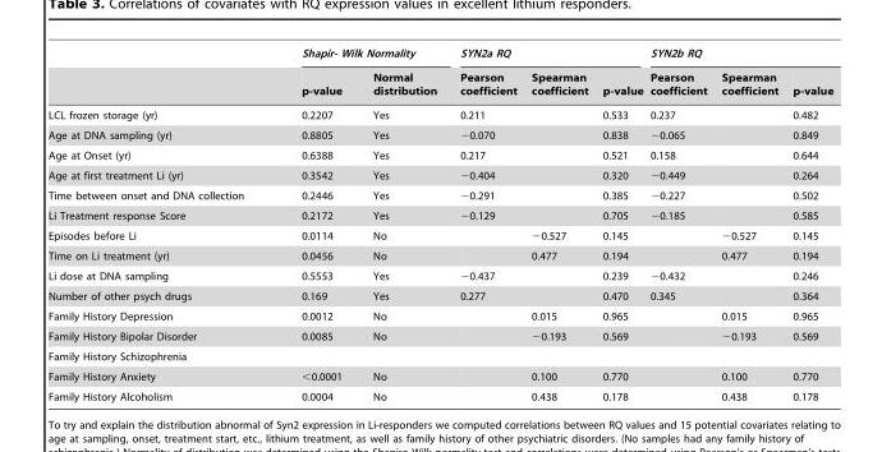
<table><thead><tr><td rowspan="2"></td><td colspan="2">Shapir- Wilk Normality</td><td colspan="3">SYN2a RQ</td><td colspan="3">SYN2b RQ</td></tr><tr><td>p-value</td><td>Normal distribution</td><td>Pearson coefficient</td><td>Spearman coefficient</td><td>p-value</td><td>Pearson coefficient</td><td>Spearman coefficient</td><td>p-value</td></tr></thead><tbody><tr><td>LCL frozen storage (yr)</td><td>0.2207</td><td>Yes</td><td>0.211</td><td></td><td>0.533</td><td>0.237</td><td></td><td>0.482</td></tr><tr><td>Age at DNA sampling (yr)</td><td>0.8805</td><td>Yes</td><td>−0.070</td><td></td><td>0.838</td><td>−0.065</td><td></td><td>0.849</td></tr><tr><td>Age at Onset (yr)</td><td>0.6388</td><td>Yes</td><td>0.217</td><td></td><td>0.521</td><td>0.158</td><td></td><td>0.644</td></tr><tr><td>Age at first treatment Li (yr)</td><td>0.3542</td><td>Yes</td><td>−0.404</td><td></td><td>0.320</td><td>−0.449</td><td></td><td>0.264</td></tr><tr><td>Time between onset and DNA collection</td><td>0.2446</td><td>Yes</td><td>−0.291</td><td></td><td>0.385</td><td>−0.227</td><td></td><td>0.502</td></tr><tr><td>Li Treatment response Score</td><td>0.2172</td><td>Yes</td><td>−0.129</td><td></td><td>0.705</td><td>−0.185</td><td></td><td>0.585</td></tr><tr><td>Episodes before Li</td><td>0.0114</td><td>No</td><td></td><td>−0.527</td><td>0.145</td><td></td><td>−0.527</td><td>0.145</td></tr><tr><td>Time on Li treatment (yr)</td><td>0.0456</td><td>No</td><td></td><td>0.477</td><td>0.194</td><td></td><td>0.477</td><td>0.194</td></tr><tr><td>Li dose at DNA sampling</td><td>0.5553</td><td>Yes</td><td>−0.437</td><td></td><td>0.239</td><td>−0.432</td><td></td><td>0.246</td></tr><tr><td>Number of other psych drugs</td><td>0.169</td><td>Yes</td><td>0.277</td><td></td><td>0.470</td><td>0.345</td><td></td><td>0.364</td></tr><tr><td>Family History Depression</td><td>0.0012</td><td>No</td><td></td><td>0.015</td><td>0.965</td><td></td><td>0.015</td><td>0.965</td></tr><tr><td>Family History Bipolar Disorder</td><td>0.0085</td><td>No</td><td></td><td>−0.193</td><td>0.569</td><td></td><td>−0.193</td><td>0.569</td></tr><tr><td colspan="9">Family History Schizophrenia</td></tr><tr><td>Family History Anxiety</td><td>&lt;0.0001</td><td>No</td><td></td><td>0.100</td><td>0.770</td><td></td><td>0.100</td><td>0.770</td></tr><tr><td>Family History Alcoholism</td><td>0.0004</td><td>No</td><td></td><td>0.438</td><td>0.178</td><td></td><td>0.438</td><td>0.178</td></tr></tbody></table>